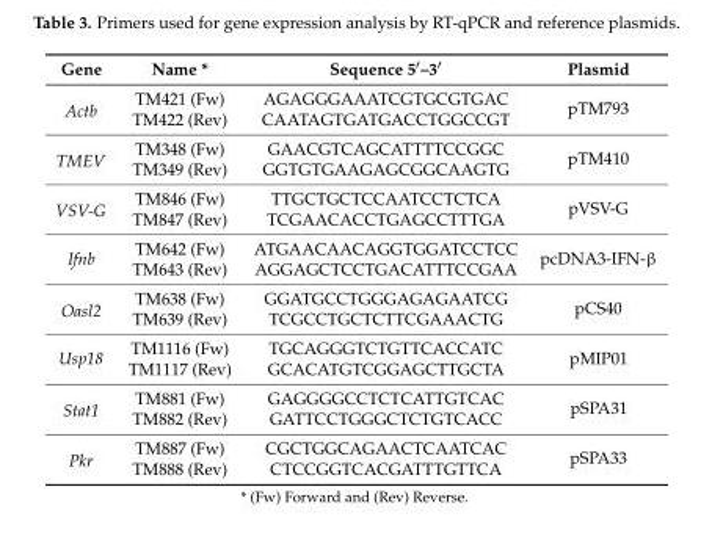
<table><thead><tr><td>Gene</td><td>Name *</td><td>Sequence 5′–3′</td><td>Plasmid</td></tr></thead><tbody><tr><td rowspan="2">Actb</td><td>TM421 (Fw)</td><td>AGAGGGAAATCGTGCGTGAC</td><td rowspan="2">pTM793</td></tr><tr><td>TM422 (Rev)</td><td>CAATAGTGATGACCTGGCCGT</td></tr><tr><td rowspan="2">TMEV</td><td>TM348 (Fw)</td><td>GAACGTCAGCATTTTCCGGC</td><td rowspan="2">pTM410</td></tr><tr><td>TM349 (Rev)</td><td>GGTGTGAAGAGCGGCAAGTG</td></tr><tr><td rowspan="2">VSV-G</td><td>TM846 (Fw)</td><td>TTGCTGCTCCAATCCTCTCA</td><td rowspan="2">pVSV-G</td></tr><tr><td>TM847 (Rev)</td><td>TCGAACACCTGAGCCTTTGA</td></tr><tr><td rowspan="2">Ifnb</td><td>TM642 (Fw)</td><td>ATGAACAACAGGTGGATCCTCC</td><td rowspan="2">pcDNA3-IFN-β</td></tr><tr><td>TM643 (Rev)</td><td>AGGAGCTCCTGACATTTCCGAA</td></tr><tr><td rowspan="2">Oasl2</td><td>TM638 (Fw)</td><td>GGATGCCTGGGAGAGAATCG</td><td rowspan="2">pCS40</td></tr><tr><td>TM639 (Rev)</td><td>TCGCCTGCTCTTCGAAACTG</td></tr><tr><td rowspan="2">Usp18</td><td>TM1116 (Fw)</td><td>TGCAGGGTCTGTTCACCATC</td><td rowspan="2">pMIP01</td></tr><tr><td>TM1117 (Rev)</td><td>GCACATGTCGGAGCTTGCTA</td></tr><tr><td rowspan="2">Stat1</td><td>TM881 (Fw)</td><td>GAGGGGCCTCTCATTGTCAC</td><td rowspan="2">pSPA31</td></tr><tr><td>TM882 (Rev)</td><td>GATTCCTGGGCTCTGTCACC</td></tr><tr><td rowspan="2">Pkr</td><td>TM887 (Fw)</td><td>CGCTGGCAGAACTCAATCAC</td><td rowspan="2">pSPA33</td></tr><tr><td>TM888 (Rev)</td><td>CTCCGGTCACGATTTGTTCA</td></tr></tbody></table>